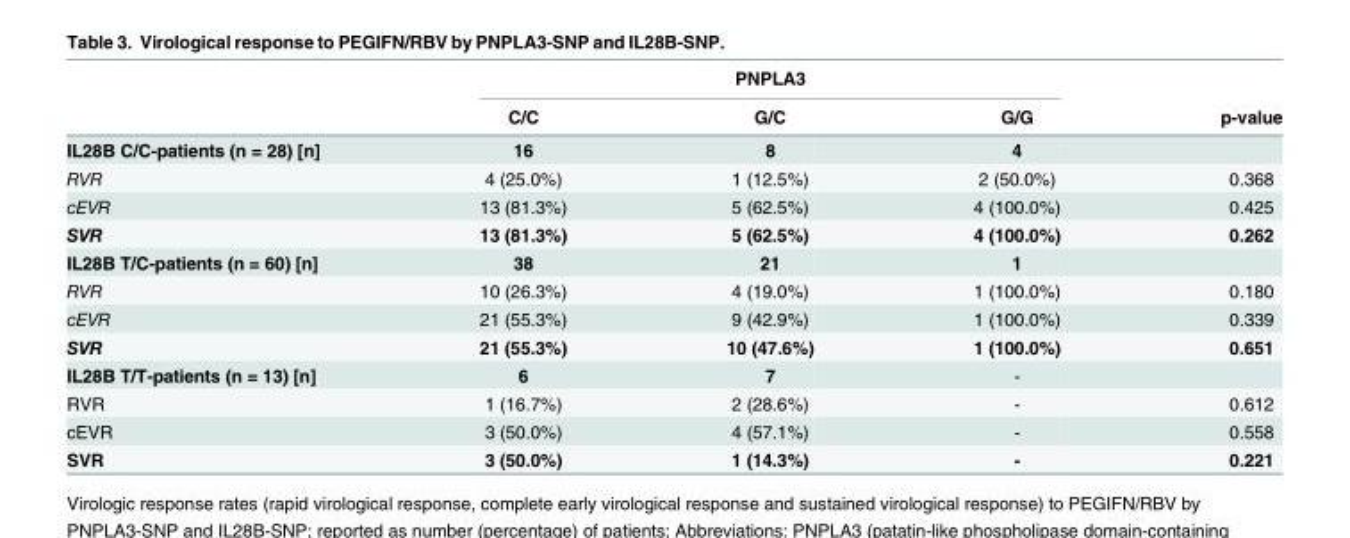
<table><thead><tr><td rowspan="2"></td><td colspan="3">PNPLA3</td><td rowspan="2">p-value</td></tr><tr><td>C/C</td><td>G/C</td><td>G/G</td></tr></thead><tbody><tr><td>IL28B C/C-patients (n = 28) [n]</td><td>16</td><td>8</td><td>4</td><td></td></tr><tr><td>RVR</td><td>4 (25.0%)</td><td>1 (12.5%)</td><td>2 (50.0%)</td><td>0.368</td></tr><tr><td>cEVR</td><td>13 (81.3%)</td><td>5 (62.5%)</td><td>4 (100.0%)</td><td>0.425</td></tr><tr><td>SVR</td><td>13 (81.3%)</td><td>5 (62.5%)</td><td>4 (100.0%)</td><td>0.262</td></tr><tr><td>IL28B T/C-patients (n = 60) [n]</td><td>38</td><td>21</td><td>1</td><td></td></tr><tr><td>RVR</td><td>10 (26.3%)</td><td>4 (19.0%)</td><td>1 (100.0%)</td><td>0.180</td></tr><tr><td>cEVR</td><td>21 (55.3%)</td><td>9 (42.9%)</td><td>1 (100.0%)</td><td>0.339</td></tr><tr><td>SVR</td><td>21 (55.3%)</td><td>10 (47.6%)</td><td>1 (100.0%)</td><td>0.651</td></tr><tr><td>IL28B T/T-patients (n = 13) [n]</td><td>6</td><td>7</td><td>-</td><td></td></tr><tr><td>RVR</td><td>1 (16.7%)</td><td>2 (28.6%)</td><td>-</td><td>0.612</td></tr><tr><td>cEVR</td><td>3 (50.0%)</td><td>4 (57.1%)</td><td>-</td><td>0.558</td></tr><tr><td>SVR</td><td>3 (50.0%)</td><td>1 (14.3%)</td><td>-</td><td>0.221</td></tr></tbody></table>